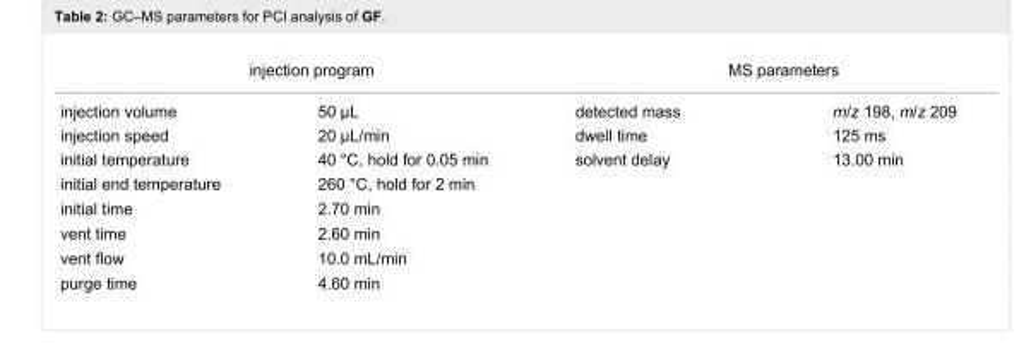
<table><tbody><tr><td colspan="2">injection program</td><td colspan="2">MS parameters</td></tr><tr><td>injection volume</td><td>50 µL</td><td>detected mass</td><td>m/z 198, m/z 209</td></tr><tr><td>injection speed</td><td>20 µL/min</td><td>dwell time</td><td>125 ms</td></tr><tr><td>initial temperature</td><td>40 °C, hold for 0.05 min</td><td>solvent delay</td><td>13.00 min</td></tr><tr><td>initial end temperature</td><td>260 °C, hold for 2 min</td><td></td><td></td></tr><tr><td>initial time</td><td>2.70 min</td><td></td><td></td></tr><tr><td>vent time</td><td>2.60 min</td><td></td><td></td></tr><tr><td>vent flow</td><td>10.0 mL/min</td><td></td><td></td></tr><tr><td>purge time</td><td>4.60 min</td><td></td><td></td></tr></tbody></table>